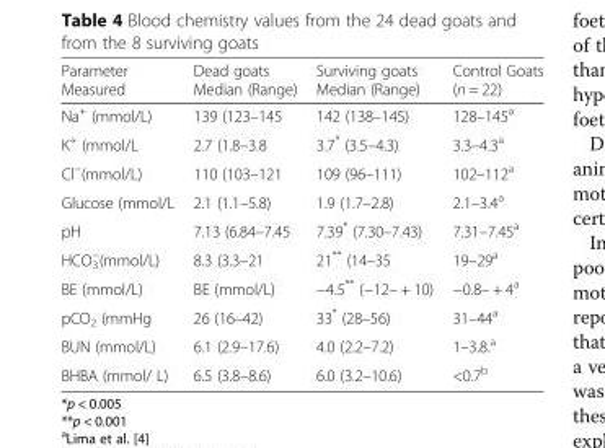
<table><thead><tr><td>Parameter Measured</td><td>Dead goats Median (Range)</td><td>Surviving goats Median (Range)</td><td>Control Goats (n = 22)</td></tr></thead><tbody><tr><td>Na<sup>+</sup> (mmol/L)</td><td>139 (123–145</td><td>142 (138–145)</td><td>128–145<sup>a</sup></td></tr><tr><td>K<sup>+</sup> (mmol/L</td><td>2.7 (1.8–3.8</td><td>3.7* (3.5–4.3)</td><td>3.3–4.3<sup>a</sup></td></tr><tr><td>Cl<sup>−</sup>(mmol/L)</td><td>110 (103–121</td><td>109 (96–111)</td><td>102–112<sup>a</sup></td></tr><tr><td>Glucose (mmol/L</td><td>2.1 (1.1–5.8)</td><td>1.9 (1.7–2.8)</td><td>2.1–3.4<sup>a</sup></td></tr><tr><td>pH</td><td>7.13 (6.84–7.45</td><td>7.39* (7.30–7.43)</td><td>7.31–7.45<sup>a</sup></td></tr><tr><td>HCO<sub>3</sub> <sup>−</sup>(mmol/L)</td><td>8.3 (3.3–21</td><td>21** (14–35</td><td>19–29<sup>a</sup></td></tr><tr><td>BE (mmol/L)</td><td>BE (mmol/L)</td><td>−4.5** (−12– + 10)</td><td>−0.8– + 4<sup>a</sup></td></tr><tr><td>pCO<sub>2</sub> (mmHg</td><td>26 (16–42)</td><td>33* (28–56)</td><td>31–44<sup>a</sup></td></tr><tr><td>BUN (mmol/L)</td><td>6.1 (2.9–17.6)</td><td>4.0 (2.2–7.2)</td><td>1–3.8.<sup>a</sup></td></tr><tr><td>BHBA (mmol/ L)</td><td>6.5 (3.8–8.6)</td><td>6.0 (3.2–10.6)</td><td>&lt;0.7<sup>b</sup></td></tr></tbody></table>